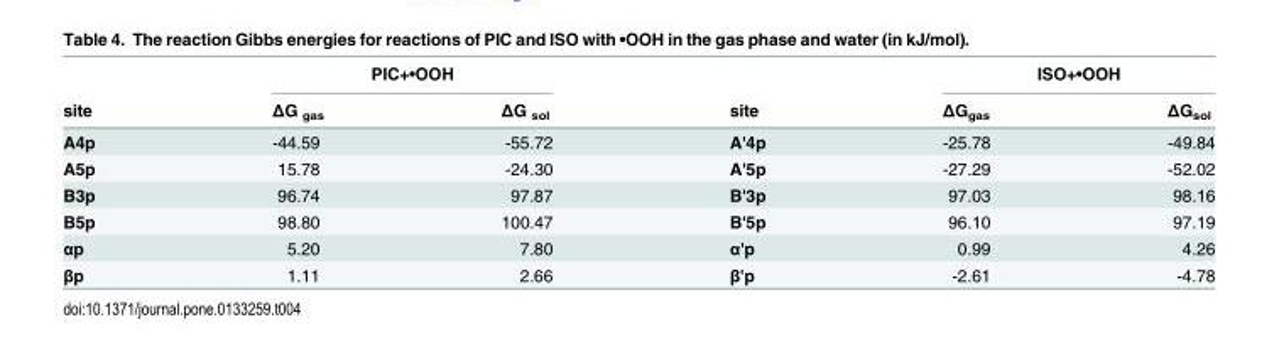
<table><thead><tr><td rowspan="2">site</td><td colspan="2">PIC+•OOH</td><td rowspan="2">site</td><td colspan="2">ISO+•OOH</td></tr><tr><td>ΔG <sub>gas</sub></td><td>ΔG <sub>sol</sub></td><td>ΔG<sub>gas</sub></td><td>ΔG<sub>sol</sub></td></tr></thead><tbody><tr><td>A4p</td><td>-44.59</td><td>-55.72</td><td>A&#x27;4p</td><td>-25.78</td><td>-49.84</td></tr><tr><td>A5p</td><td>15.78</td><td>-24.30</td><td>A&#x27;5p</td><td>-27.29</td><td>-52.02</td></tr><tr><td>B3p</td><td>96.74</td><td>97.87</td><td>B&#x27;3p</td><td>97.03</td><td>98.16</td></tr><tr><td>B5p</td><td>98.80</td><td>100.47</td><td>B&#x27;5p</td><td>96.10</td><td>97.19</td></tr><tr><td>αp</td><td>5.20</td><td>7.80</td><td>α&#x27;p</td><td>0.99</td><td>4.26</td></tr><tr><td>βp</td><td>1.11</td><td>2.66</td><td>β&#x27;p</td><td>-2.61</td><td>-4.78</td></tr></tbody></table>